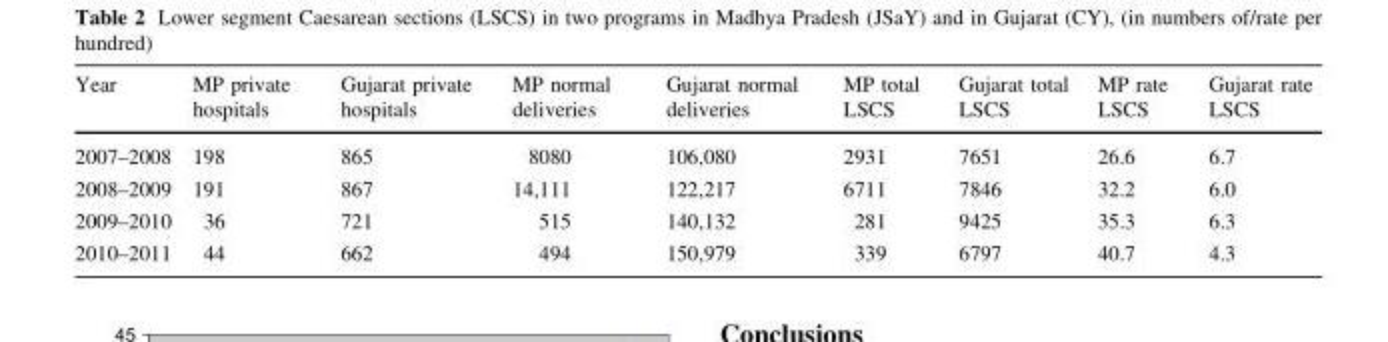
<table><thead><tr><td>Year</td><td>MP private hospitals</td><td>Gujarat private hospitals</td><td>MP normal deliveries</td><td>Gujarat normal deliveries</td><td>MP total LSCS</td><td>Gujarat total LSCS</td><td>MP rate LSCS</td><td>Gujarat rate LSCS</td></tr></thead><tbody><tr><td>2007–2008</td><td>198</td><td>865</td><td>8080</td><td>106,080</td><td>2931</td><td>7651</td><td>26.6</td><td>6.7</td></tr><tr><td>2008–2009</td><td>191</td><td>867</td><td>14,111</td><td>122,217</td><td>6711</td><td>7846</td><td>32.2</td><td>6.0</td></tr><tr><td>2009–2010</td><td>36</td><td>721</td><td>515</td><td>140,132</td><td>281</td><td>9425</td><td>35.3</td><td>6.3</td></tr><tr><td>2010–2011</td><td>44</td><td>662</td><td>494</td><td>150,979</td><td>339</td><td>6797</td><td>40.7</td><td>4.3</td></tr></tbody></table>